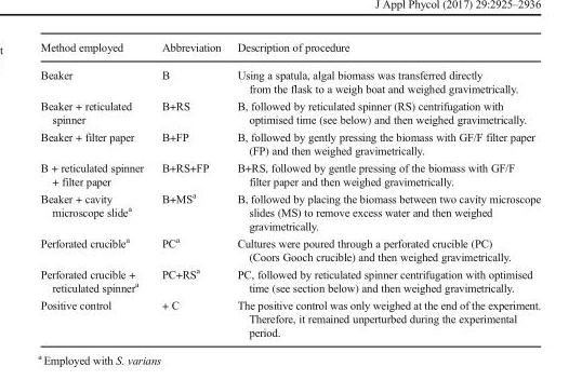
<table><thead><tr><td>Method employed</td><td>Abbreviation</td><td>Description of procedure</td></tr></thead><tbody><tr><td>Beaker</td><td>B</td><td>Using a spatula, algal biomass was transferred directly from the flask to a weigh boat and weighed gravimetrically.</td></tr><tr><td>Beaker + reticulated spinner</td><td>B+RS</td><td>B, followed by reticulated spinner (RS) centrifugation with optimised time (see below) and then weighed gravimetrically.</td></tr><tr><td>Beaker + filter paper</td><td>B+FP</td><td>B, followed by gently pressing the biomass with GF/F filter paper (FP) and then weighed gravimetrically.</td></tr><tr><td>B + reticulated spinner + filter paper</td><td>B+RS+FP</td><td>B+RS, followed by gentle pressing of the biomass with GF/F filter paper and then weighed gravimetrically.</td></tr><tr><td>Beaker + cavity microscope slide<sup>a</sup></td><td>B+MS<sup>a</sup></td><td>B, followed by placing the biomass between two cavity microscope slides (MS) to remove excess water and then weighed gravimetrically.</td></tr><tr><td>Perforated crucible<sup>a</sup></td><td>PC<sup>a</sup></td><td>Cultures were poured through a perforated crucible (PC) (Coors Gooch crucible) and then weighed gravimetrically.</td></tr><tr><td>Perforated crucible + reticulated spinner<sup>a</sup></td><td>PC+RS<sup>a</sup></td><td>PC, followed by reticulated spinner centrifugation with optimised time (see section below) and then weighed gravimetrically.</td></tr><tr><td>Positive control</td><td>+ C</td><td>The positive control was only weighed at the end of the experiment. Therefore, it remained unperturbed during the experimental period.</td></tr></tbody></table>